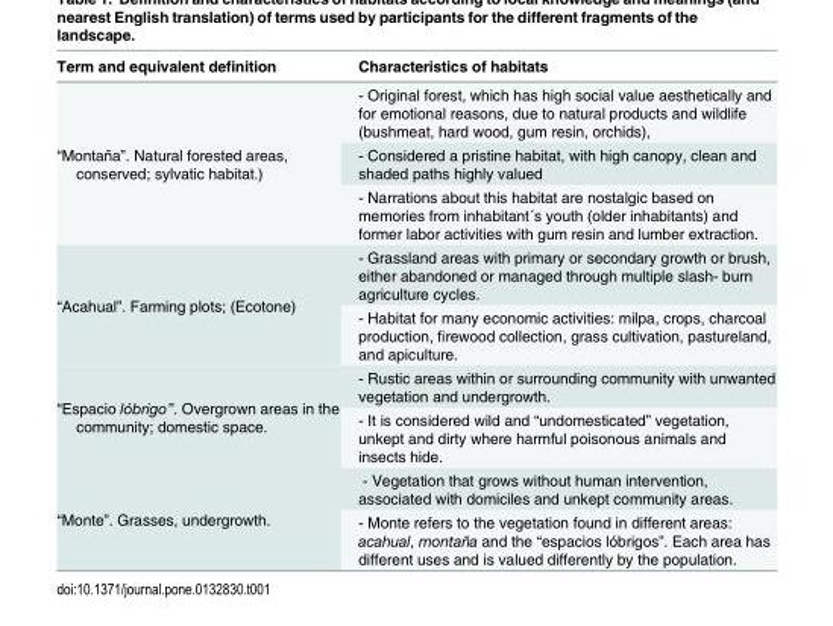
<table><thead><tr><td>Term and equivalent definition</td><td>Characteristics of habitats</td></tr></thead><tbody><tr><td rowspan="3">“Montaña”. Natural forested areas, conserved; sylvatic habitat.)</td><td>- Original forest, which has high social value aesthetically and for emotional reasons, due to natural products and wildlife (bushmeat, hard wood, gum resin, orchids),</td></tr><tr><td>- Considered a pristine habitat, with high canopy, clean and shaded paths highly valued</td></tr><tr><td>- Narrations about this habitat are nostalgic based on memories from inhabitant´s youth (older inhabitants) and former labor activities with gum resin and lumber extraction.</td></tr><tr><td rowspan="2">“Acahual”. Farming plots; (Ecotone)</td><td>- Grassland areas with primary or secondary growth or brush, either abandoned or managed through multiple slash- burn agriculture cycles.</td></tr><tr><td>- Habitat for many economic activities: milpa, crops, charcoal production, firewood collection, grass cultivation, pastureland, and apiculture.</td></tr><tr><td rowspan="2">“Espacio lóbrigo”. Overgrown areas in the community; domestic space.</td><td>- Rustic areas within or surrounding community with unwanted vegetation and undergrowth.</td></tr><tr><td>- It is considered wild and “undomesticated” vegetation, unkept and dirty where harmful poisonous animals and insects hide.</td></tr><tr><td rowspan="2">“Monte”. Grasses, undergrowth.</td><td>- Vegetation that grows without human intervention, associated with domiciles and unkept community areas.</td></tr><tr><td>- Monte refers to the vegetation found in different areas: acahual, montaña and the “espacios lóbrigos”. Each area has different uses and is valued differently by the population.</td></tr></tbody></table>